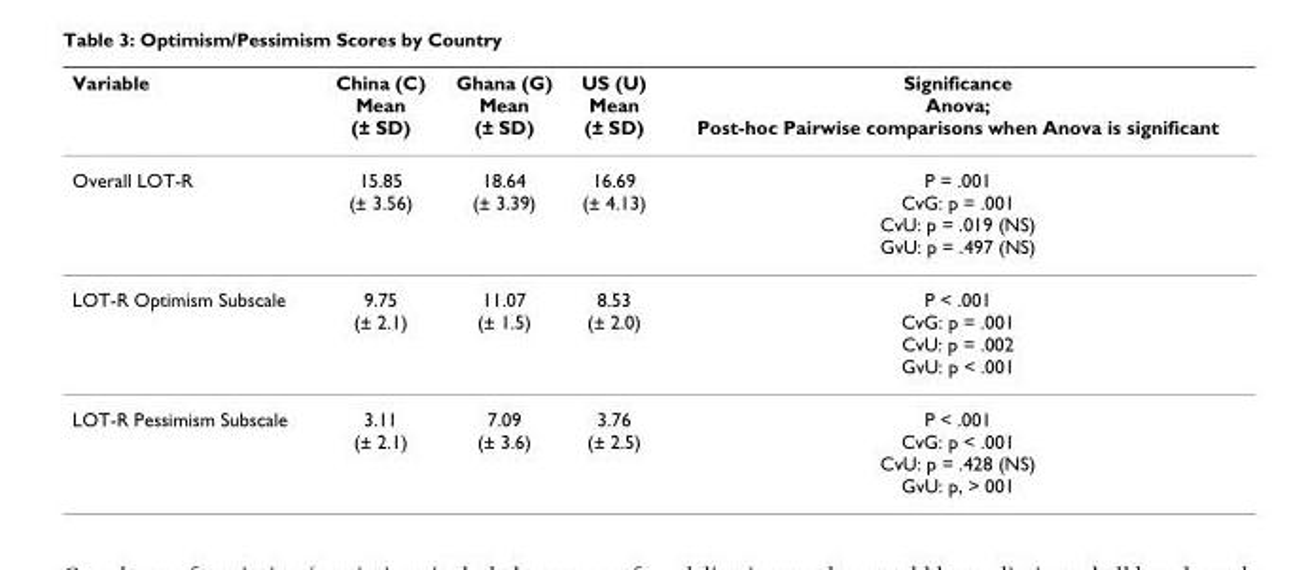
<table><thead><tr><td>Variable</td><td>China (C) Mean (± SD)</td><td>Ghana (G) Mean (± SD)</td><td>US (U) Mean (± SD)</td><td>Significance Anova; Post-hoc Pairwise comparisons when Anova is significant</td></tr></thead><tbody><tr><td>Overall LOT-R</td><td>15.85 (± 3.56)</td><td>18.64 (± 3.39)</td><td>16.69 (± 4.13)</td><td>P = .001 CvG: p = .001 CvU: p = .019 (NS) GvU: p = .497 (NS)</td></tr><tr><td>LOT-R Optimism Subscale</td><td>9.75 (± 2.1)</td><td>11.07 (± 1.5)</td><td>8.53 (± 2.0)</td><td>P &lt; .001 CvG: p = .001 CvU: p = .002 GvU: p &lt; .001</td></tr><tr><td>LOT-R Pessimism Subscale</td><td>3.11 (± 2.1)</td><td>7.09 (± 3.6)</td><td>3.76 (± 2.5)</td><td>P &lt; .001 CvG: p &lt; .001 CvU: p = .428 (NS) GvU: p, &gt; 001</td></tr></tbody></table>